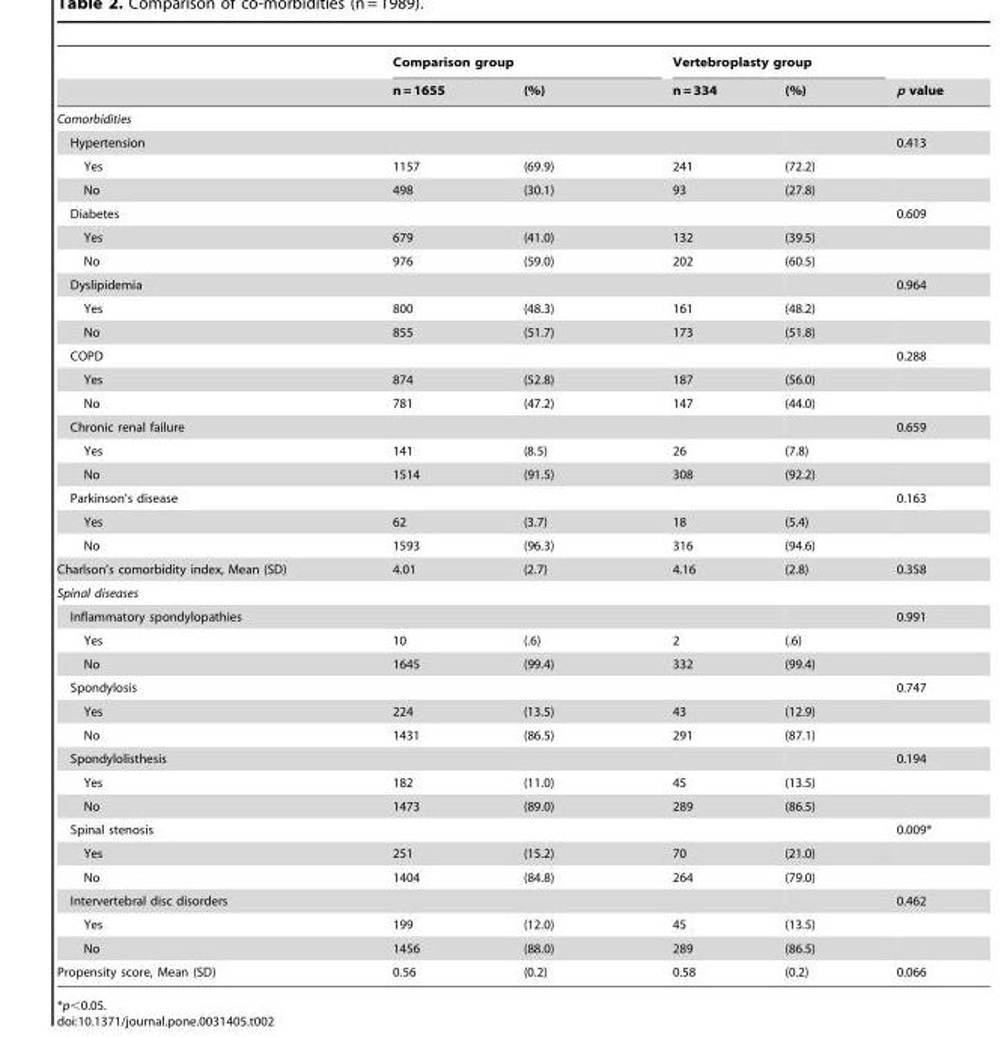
<table><thead><tr><td rowspan="2"></td><td colspan="2">Comparison group</td><td colspan="2">Vertebroplasty group</td><td rowspan="2">p value</td></tr><tr><td>n = 1655</td><td>(%)</td><td>n = 334</td><td>(%)</td></tr></thead><tbody><tr><td colspan="6">Comorbidities</td></tr><tr><td>Hypertension</td><td></td><td></td><td></td><td></td><td>0.413</td></tr><tr><td>Yes</td><td>1157</td><td>(69.9)</td><td>241</td><td>(72.2)</td><td></td></tr><tr><td>No</td><td>498</td><td>(30.1)</td><td>93</td><td>(27.8)</td><td></td></tr><tr><td>Diabetes</td><td></td><td></td><td></td><td></td><td>0.609</td></tr><tr><td>Yes</td><td>679</td><td>(41.0)</td><td>132</td><td>(39.5)</td><td></td></tr><tr><td>No</td><td>976</td><td>(59.0)</td><td>202</td><td>(60.5)</td><td></td></tr><tr><td>Dyslipidemia</td><td></td><td></td><td></td><td></td><td>0.964</td></tr><tr><td>Yes</td><td>800</td><td>(48.3)</td><td>161</td><td>(48.2)</td><td></td></tr><tr><td>No</td><td>855</td><td>(51.7)</td><td>173</td><td>(51.8)</td><td></td></tr><tr><td>COPD</td><td></td><td></td><td></td><td></td><td>0.288</td></tr><tr><td>Yes</td><td>874</td><td>(52.8)</td><td>187</td><td>(56.0)</td><td></td></tr><tr><td>No</td><td>781</td><td>(47.2)</td><td>147</td><td>(44.0)</td><td></td></tr><tr><td>Chronic renal failure</td><td></td><td></td><td></td><td></td><td>0.659</td></tr><tr><td>Yes</td><td>141</td><td>(8.5)</td><td>26</td><td>(7.8)</td><td></td></tr><tr><td>No</td><td>1514</td><td>(91.5)</td><td>308</td><td>(92.2)</td><td></td></tr><tr><td>Parkinson’s disease</td><td></td><td></td><td></td><td></td><td>0.163</td></tr><tr><td>Yes</td><td>62</td><td>(3.7)</td><td>18</td><td>(5.4)</td><td></td></tr><tr><td>No</td><td>1593</td><td>(96.3)</td><td>316</td><td>(94.6)</td><td></td></tr><tr><td>Charlson’s comorbidity index, Mean (SD)</td><td>4.01</td><td>(2.7)</td><td>4.16</td><td>(2.8)</td><td>0.358</td></tr><tr><td colspan="6">Spinal diseases</td></tr><tr><td>Inflammatory spondylopathies</td><td></td><td></td><td></td><td></td><td>0.991</td></tr><tr><td>Yes</td><td>10</td><td>(.6)</td><td>2</td><td>(.6)</td><td></td></tr><tr><td>No</td><td>1645</td><td>(99.4)</td><td>332</td><td>(99.4)</td><td></td></tr><tr><td>Spondylosis</td><td></td><td></td><td></td><td></td><td>0.747</td></tr><tr><td>Yes</td><td>224</td><td>(13.5)</td><td>43</td><td>(12.9)</td><td></td></tr><tr><td>No</td><td>1431</td><td>(86.5)</td><td>291</td><td>(87.1)</td><td></td></tr><tr><td>Spondylolisthesis</td><td></td><td></td><td></td><td></td><td>0.194</td></tr><tr><td>Yes</td><td>182</td><td>(11.0)</td><td>45</td><td>(13.5)</td><td></td></tr><tr><td>No</td><td>1473</td><td>(89.0)</td><td>289</td><td>(86.5)</td><td></td></tr><tr><td>Spinal stenosis</td><td></td><td></td><td></td><td></td><td>0.009*</td></tr><tr><td>Yes</td><td>251</td><td>(15.2)</td><td>70</td><td>(21.0)</td><td></td></tr><tr><td>No</td><td>1404</td><td>(84.8)</td><td>264</td><td>(79.0)</td><td></td></tr><tr><td>Intervertebral disc disorders</td><td></td><td></td><td></td><td></td><td>0.462</td></tr><tr><td>Yes</td><td>199</td><td>(12.0)</td><td>45</td><td>(13.5)</td><td></td></tr><tr><td>No</td><td>1456</td><td>(88.0)</td><td>289</td><td>(86.5)</td><td></td></tr><tr><td>Propensity score, Mean (SD)</td><td>0.56</td><td>(0.2)</td><td>0.58</td><td>(0.2)</td><td>0.066</td></tr></tbody></table>